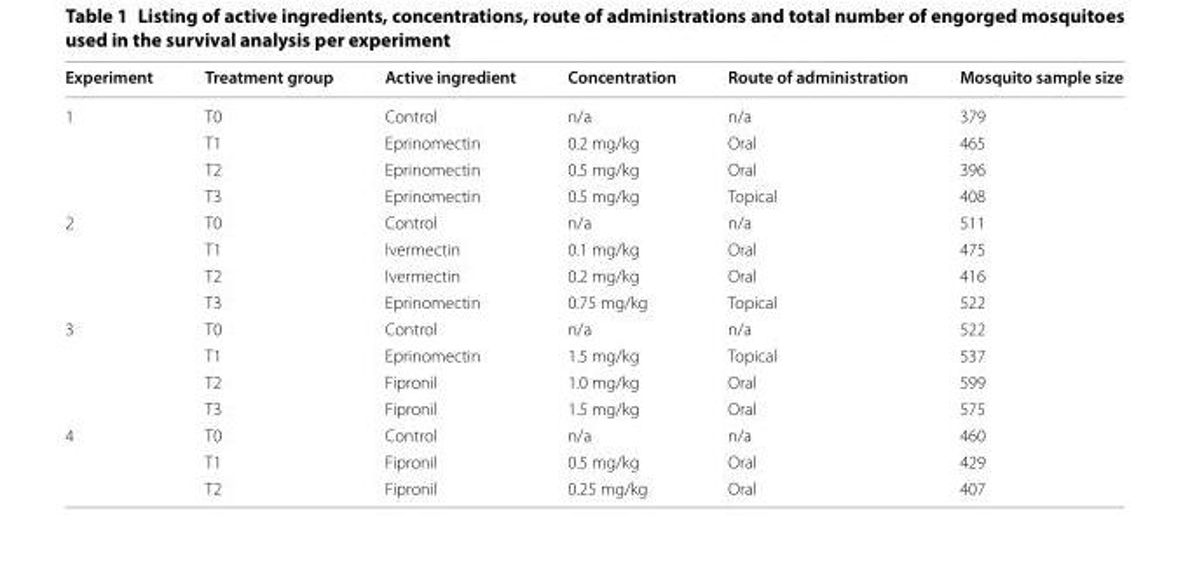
<table><thead><tr><td>Experiment</td><td>Treatment group</td><td>Active ingredient</td><td>Concentration</td><td>Route of administration</td><td>Mosquito sample size</td></tr></thead><tbody><tr><td rowspan="4">1</td><td>T0</td><td>Control</td><td>n/a</td><td>n/a</td><td>379</td></tr><tr><td>T1</td><td>Eprinomectin</td><td>0.2 mg/kg</td><td>Oral</td><td>465</td></tr><tr><td>T2</td><td>Eprinomectin</td><td>0.5 mg/kg</td><td>Oral</td><td>396</td></tr><tr><td>T3</td><td>Eprinomectin</td><td>0.5 mg/kg</td><td>Topical</td><td>408</td></tr><tr><td rowspan="4">2</td><td>T0</td><td>Control</td><td>n/a</td><td>n/a</td><td>511</td></tr><tr><td>T1</td><td>Ivermectin</td><td>0.1 mg/kg</td><td>Oral</td><td>475</td></tr><tr><td>T2</td><td>Ivermectin</td><td>0.2 mg/kg</td><td>Oral</td><td>416</td></tr><tr><td>T3</td><td>Eprinomectin</td><td>0.75 mg/kg</td><td>Topical</td><td>522</td></tr><tr><td rowspan="4">3</td><td>T0</td><td>Control</td><td>n/a</td><td>n/a</td><td>522</td></tr><tr><td>T1</td><td>Eprinomectin</td><td>1.5 mg/kg</td><td>Topical</td><td>537</td></tr><tr><td>T2</td><td>Fipronil</td><td>1.0 mg/kg</td><td>Oral</td><td>599</td></tr><tr><td>T3</td><td>Fipronil</td><td>1.5 mg/kg</td><td>Oral</td><td>575</td></tr><tr><td rowspan="3">4</td><td>T0</td><td>Control</td><td>n/a</td><td>n/a</td><td>460</td></tr><tr><td>T1</td><td>Fipronil</td><td>0.5 mg/kg</td><td>Oral</td><td>429</td></tr><tr><td>T2</td><td>Fipronil</td><td>0.25 mg/kg</td><td>Oral</td><td>407</td></tr></tbody></table>